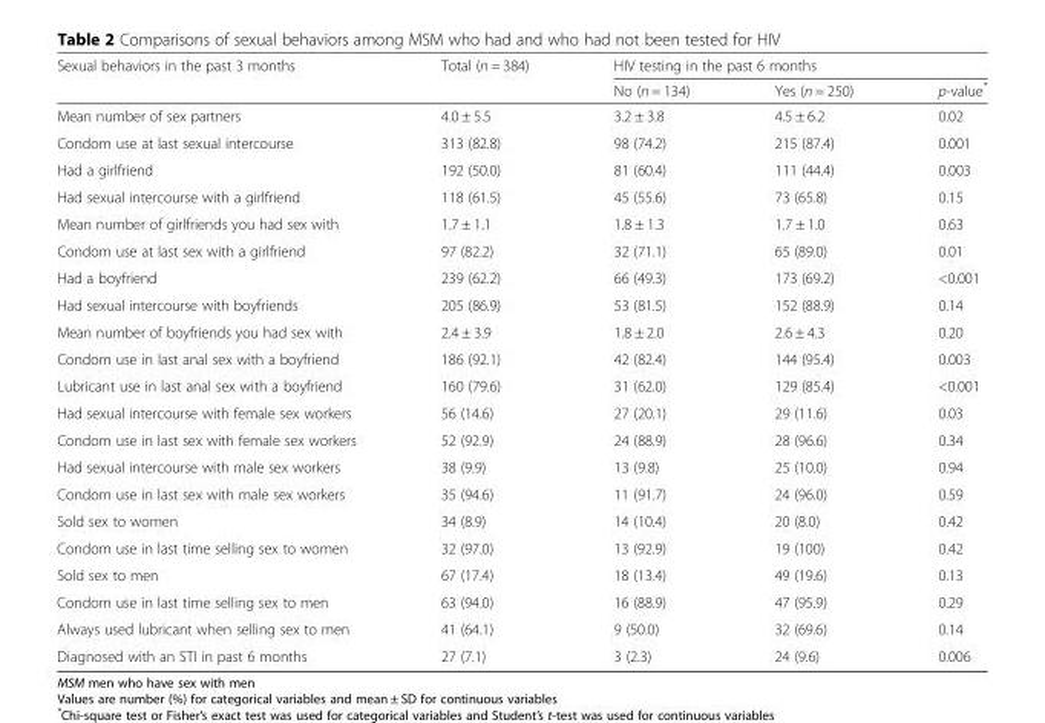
<table><thead><tr><td rowspan="2">Sexual behaviors in the past 3 months</td><td rowspan="2">Total (n = 384)</td><td colspan="3">HIV testing in the past 6 months</td></tr><tr><td>No (n = 134)</td><td>Yes (n = 250)</td><td>p-value*</td></tr></thead><tbody><tr><td>Mean number of sex partners</td><td>4.0 ± 5.5</td><td>3.2 ± 3.8</td><td>4.5 ± 6.2</td><td>0.02</td></tr><tr><td>Condom use at last sexual intercourse</td><td>313 (82.8)</td><td>98 (74.2)</td><td>215 (87.4)</td><td>0.001</td></tr><tr><td>Had a girlfriend</td><td>192 (50.0)</td><td>81 (60.4)</td><td>111 (44.4)</td><td>0.003</td></tr><tr><td>Had sexual intercourse with a girlfriend</td><td>118 (61.5)</td><td>45 (55.6)</td><td>73 (65.8)</td><td>0.15</td></tr><tr><td>Mean number of girlfriends you had sex with</td><td>1.7 ± 1.1</td><td>1.8 ± 1.3</td><td>1.7 ± 1.0</td><td>0.63</td></tr><tr><td>Condom use at last sex with a girlfriend</td><td>97 (82.2)</td><td>32 (71.1)</td><td>65 (89.0)</td><td>0.01</td></tr><tr><td>Had a boyfriend</td><td>239 (62.2)</td><td>66 (49.3)</td><td>173 (69.2)</td><td>&lt;0.001</td></tr><tr><td>Had sexual intercourse with boyfriends</td><td>205 (86.9)</td><td>53 (81.5)</td><td>152 (88.9)</td><td>0.14</td></tr><tr><td>Mean number of boyfriends you had sex with</td><td>2.4 ± 3.9</td><td>1.8 ± 2.0</td><td>2.6 ± 4.3</td><td>0.20</td></tr><tr><td>Condom use in last anal sex with a boyfriend</td><td>186 (92.1)</td><td>42 (82.4)</td><td>144 (95.4)</td><td>0.003</td></tr><tr><td>Lubricant use in last anal sex with a boyfriend</td><td>160 (79.6)</td><td>31 (62.0)</td><td>129 (85.4)</td><td>&lt;0.001</td></tr><tr><td>Had sexual intercourse with female sex workers</td><td>56 (14.6)</td><td>27 (20.1)</td><td>29 (11.6)</td><td>0.03</td></tr><tr><td>Condom use in last sex with female sex workers</td><td>52 (92.9)</td><td>24 (88.9)</td><td>28 (96.6)</td><td>0.34</td></tr><tr><td>Had sexual intercourse with male sex workers</td><td>38 (9.9)</td><td>13 (9.8)</td><td>25 (10.0)</td><td>0.94</td></tr><tr><td>Condom use in last sex with male sex workers</td><td>35 (94.6)</td><td>11 (91.7)</td><td>24 (96.0)</td><td>0.59</td></tr><tr><td>Sold sex to women</td><td>34 (8.9)</td><td>14 (10.4)</td><td>20 (8.0)</td><td>0.42</td></tr><tr><td>Condom use in last time selling sex to women</td><td>32 (97.0)</td><td>13 (92.9)</td><td>19 (100)</td><td>0.42</td></tr><tr><td>Sold sex to men</td><td>67 (17.4)</td><td>18 (13.4)</td><td>49 (19.6)</td><td>0.13</td></tr><tr><td>Condom use in last time selling sex to men</td><td>63 (94.0)</td><td>16 (88.9)</td><td>47 (95.9)</td><td>0.29</td></tr><tr><td>Always used lubricant when selling sex to men</td><td>41 (64.1)</td><td>9 (50.0)</td><td>32 (69.6)</td><td>0.14</td></tr><tr><td>Diagnosed with an STI in past 6 months</td><td>27 (7.1)</td><td>3 (2.3)</td><td>24 (9.6)</td><td>0.006</td></tr></tbody></table>